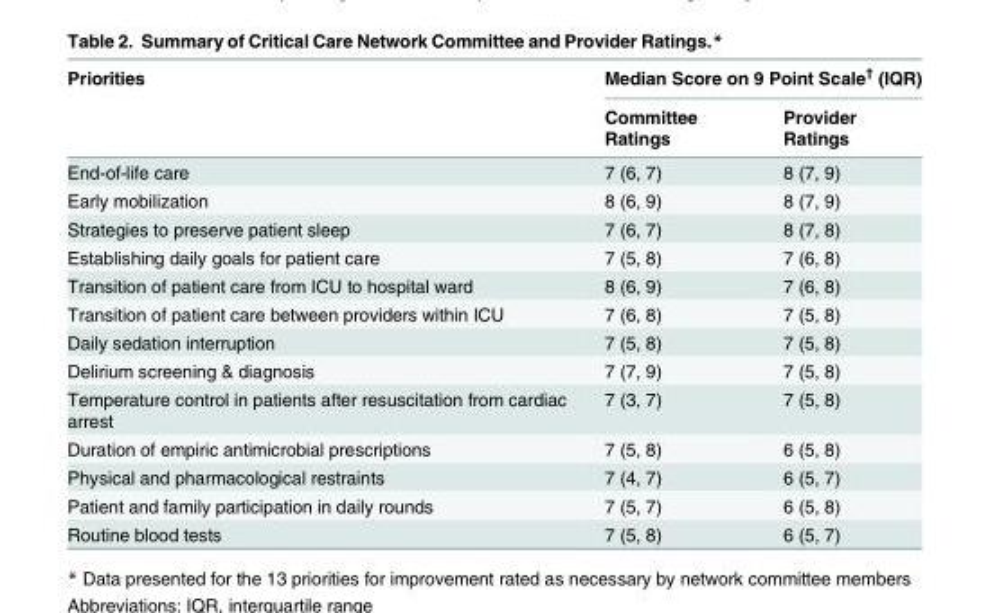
<table><thead><tr><td rowspan="2">Priorities</td><td colspan="2">Median Score on 9 Point Scale<sup>†</sup> (IQR)</td></tr><tr><td>Committee Ratings</td><td>Provider Ratings</td></tr></thead><tbody><tr><td>End-of-life care</td><td>7 (6, 7)</td><td>8 (7, 9)</td></tr><tr><td>Early mobilization</td><td>8 (6, 9)</td><td>8 (7, 9)</td></tr><tr><td>Strategies to preserve patient sleep</td><td>7 (6, 7)</td><td>8 (7, 8)</td></tr><tr><td>Establishing daily goals for patient care</td><td>7 (5, 8)</td><td>7 (6, 8)</td></tr><tr><td>Transition of patient care from ICU to hospital ward</td><td>8 (6, 9)</td><td>7 (6, 8)</td></tr><tr><td>Transition of patient care between providers within ICU</td><td>7 (6, 8)</td><td>7 (5, 8)</td></tr><tr><td>Daily sedation interruption</td><td>7 (5, 8)</td><td>7 (5, 8)</td></tr><tr><td>Delirium screening &amp; diagnosis</td><td>7 (7, 9)</td><td>7 (5, 8)</td></tr><tr><td>Temperature control in patients after resuscitation from cardiac arrest</td><td>7 (3, 7)</td><td>7 (5, 8)</td></tr><tr><td>Duration of empiric antimicrobial prescriptions</td><td>7 (5, 8)</td><td>6 (5, 8)</td></tr><tr><td>Physical and pharmacological restraints</td><td>7 (4, 7)</td><td>6 (5, 7)</td></tr><tr><td>Patient and family participation in daily rounds</td><td>7 (5, 7)</td><td>6 (5, 8)</td></tr><tr><td>Routine blood tests</td><td>7 (5, 8)</td><td>6 (5, 7)</td></tr></tbody></table>